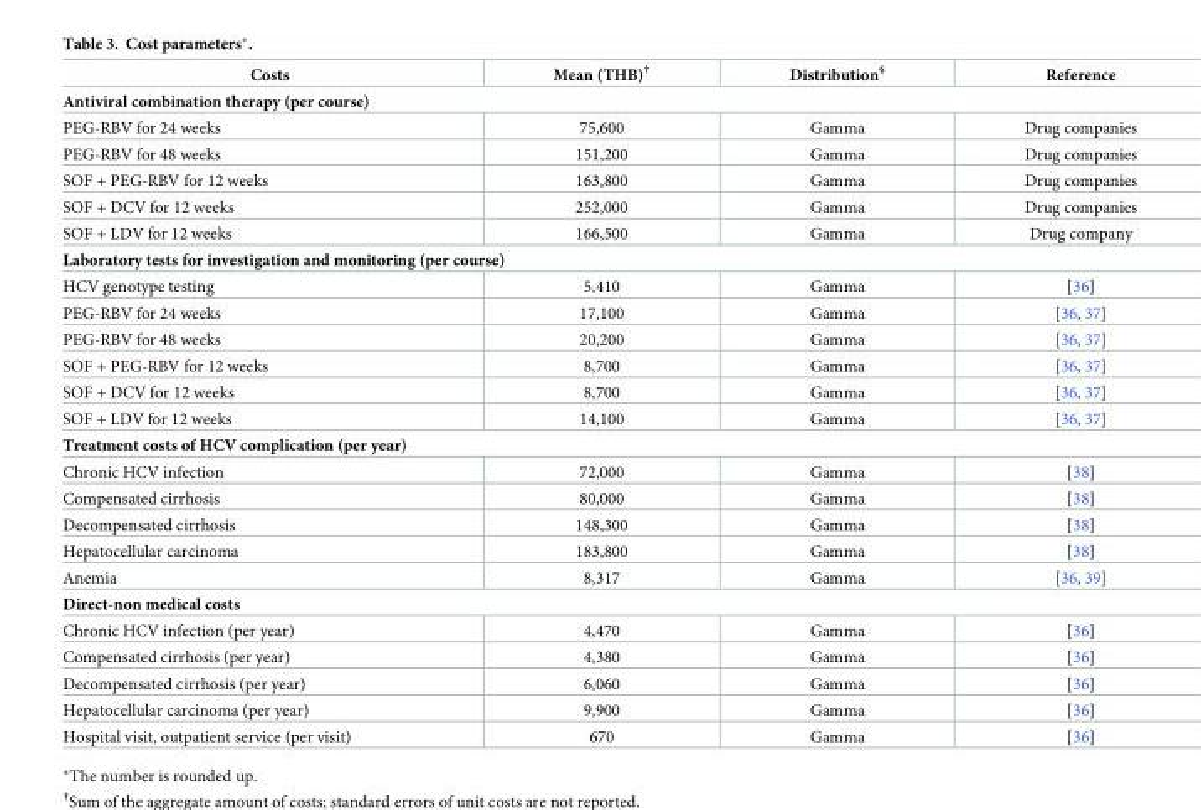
<table><thead><tr><td>Costs</td><td>Mean (THB)<sup>†</sup></td><td>Distribution<sup>§</sup></td><td>Reference</td></tr></thead><tbody><tr><td colspan="4">Antiviral combination therapy (per course)</td></tr><tr><td>PEG-RBV for 24 weeks</td><td>75,600</td><td>Gamma</td><td>Drug companies</td></tr><tr><td>PEG-RBV for 48 weeks</td><td>151,200</td><td>Gamma</td><td>Drug companies</td></tr><tr><td>SOF + PEG-RBV for 12 weeks</td><td>163,800</td><td>Gamma</td><td>Drug companies</td></tr><tr><td>SOF + DCV for 12 weeks</td><td>252,000</td><td>Gamma</td><td>Drug companies</td></tr><tr><td>SOF + LDV for 12 weeks</td><td>166,500</td><td>Gamma</td><td>Drug company</td></tr><tr><td colspan="4">Laboratory tests for investigation and monitoring (per course)</td></tr><tr><td>HCV genotype testing</td><td>5,410</td><td>Gamma</td><td>[36]</td></tr><tr><td>PEG-RBV for 24 weeks</td><td>17,100</td><td>Gamma</td><td>[36, 37]</td></tr><tr><td>PEG-RBV for 48 weeks</td><td>20,200</td><td>Gamma</td><td>[36, 37]</td></tr><tr><td>SOF + PEG-RBV for 12 weeks</td><td>8,700</td><td>Gamma</td><td>[36, 37]</td></tr><tr><td>SOF + DCV for 12 weeks</td><td>8,700</td><td>Gamma</td><td>[36, 37]</td></tr><tr><td>SOF + LDV for 12 weeks</td><td>14,100</td><td>Gamma</td><td>[36, 37]</td></tr><tr><td colspan="4">Treatment costs of HCV complication (per year)</td></tr><tr><td>Chronic HCV infection</td><td>72,000</td><td>Gamma</td><td>[38]</td></tr><tr><td>Compensated cirrhosis</td><td>80,000</td><td>Gamma</td><td>[38]</td></tr><tr><td>Decompensated cirrhosis</td><td>148,300</td><td>Gamma</td><td>[38]</td></tr><tr><td>Hepatocellular carcinoma</td><td>183,800</td><td>Gamma</td><td>[38]</td></tr><tr><td>Anemia</td><td>8,317</td><td>Gamma</td><td>[36, 39]</td></tr><tr><td colspan="4">Direct-non medical costs</td></tr><tr><td>Chronic HCV infection (per year)</td><td>4,470</td><td>Gamma</td><td>[36]</td></tr><tr><td>Compensated cirrhosis (per year)</td><td>4,380</td><td>Gamma</td><td>[36]</td></tr><tr><td>Decompensated cirrhosis (per year)</td><td>6,060</td><td>Gamma</td><td>[36]</td></tr><tr><td>Hepatocellular carcinoma (per year)</td><td>9,900</td><td>Gamma</td><td>[36]</td></tr><tr><td>Hospital visit, outpatient service (per visit)</td><td>670</td><td>Gamma</td><td>[36]</td></tr></tbody></table>